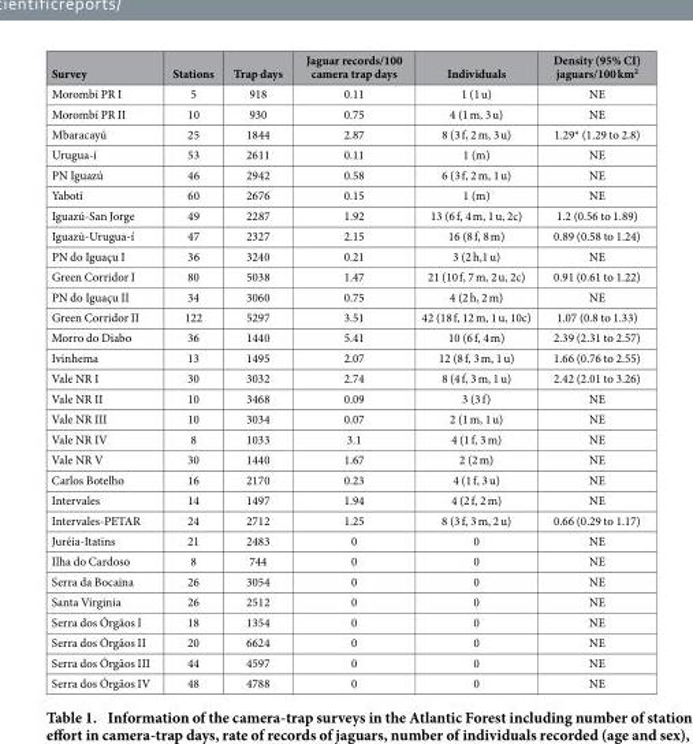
<table><thead><tr><td>Survey</td><td>Stations</td><td>Trap days</td><td>Jaguar records/100 camera trap days</td><td>Individuals</td><td>Density (95% CI) jaguars/100 km<sup>2</sup></td></tr></thead><tbody><tr><td>Morombí PR I</td><td>5</td><td>918</td><td>0.11</td><td>1 (1 u)</td><td>NE</td></tr><tr><td>Morombí PR II</td><td>10</td><td>930</td><td>0.75</td><td>4 (1 m, 3 u)</td><td>NE</td></tr><tr><td>Mbaracayú</td><td>25</td><td>1844</td><td>2.87</td><td>8 (3 f, 2 m, 3 u)</td><td>1.29* (1.29 to 2.8)</td></tr><tr><td>Urugua-í</td><td>53</td><td>2611</td><td>0.11</td><td>1 (m)</td><td>NE</td></tr><tr><td>PN Iguazú</td><td>46</td><td>2942</td><td>0.58</td><td>6 (3 f, 2 m, 1 u)</td><td>NE</td></tr><tr><td>Yabotí</td><td>60</td><td>2676</td><td>0.15</td><td>1 (m)</td><td>NE</td></tr><tr><td>Iguazú-San Jorge</td><td>49</td><td>2287</td><td>1.92</td><td>13 (6 f, 4 m, 1 u, 2c)</td><td>1.2 (0.56 to 1.89)</td></tr><tr><td>Iguazú-Urugua-í</td><td>47</td><td>2327</td><td>2.15</td><td>16 (8 f, 8 m)</td><td>0.89 (0.58 to 1.24)</td></tr><tr><td>PN do Iguaçu I</td><td>36</td><td>3240</td><td>0.21</td><td>3 (2 h,1 u)</td><td>NE</td></tr><tr><td>Green Corridor I</td><td>80</td><td>5038</td><td>1.47</td><td>21 (10 f, 7 m, 2 u, 2c)</td><td>0.91 (0.61 to 1.22)</td></tr><tr><td>PN do Iguaçu II</td><td>34</td><td>3060</td><td>0.75</td><td>4 (2 h, 2 m)</td><td>NE</td></tr><tr><td>Green Corridor II</td><td>122</td><td>5297</td><td>3.51</td><td>42 (18 f, 12 m, 1 u, 10c)</td><td>1.07 (0.8 to 1.33)</td></tr><tr><td>Morro do Diabo</td><td>36</td><td>1440</td><td>5.41</td><td>10 (6 f, 4 m)</td><td>2.39 (2.31 to 2.57)</td></tr><tr><td>Ivinhema</td><td>13</td><td>1495</td><td>2.07</td><td>12 (8 f, 3 m, 1 u)</td><td>1.66 (0.76 to 2.55)</td></tr><tr><td>Vale NR I</td><td>30</td><td>3032</td><td>2.74</td><td>8 (4 f, 3 m, 1 u)</td><td>2.42 (2.01 to 3.26)</td></tr><tr><td>Vale NR II</td><td>10</td><td>3468</td><td>0.09</td><td>3 (3 f)</td><td>NE</td></tr><tr><td>Vale NR III</td><td>10</td><td>3034</td><td>0.07</td><td>2 (1 m, 1 u)</td><td>NE</td></tr><tr><td>Vale NR IV</td><td>8</td><td>1033</td><td>3.1</td><td>4 (1 f, 3 m)</td><td>NE</td></tr><tr><td>Vale NR V</td><td>30</td><td>1440</td><td>1.67</td><td>2 (2 m)</td><td>NE</td></tr><tr><td>Carlos Botelho</td><td>16</td><td>2170</td><td>0.23</td><td>4 (1 f, 3 u)</td><td>NE</td></tr><tr><td>Intervales</td><td>14</td><td>1497</td><td>1.94</td><td>4 (2 f, 2 m)</td><td>NE</td></tr><tr><td>Intervales-PETAR</td><td>24</td><td>2712</td><td>1.25</td><td>8 (3 f, 3 m, 2 u)</td><td>0.66 (0.29 to 1.17)</td></tr><tr><td>Juréia-Itatins</td><td>21</td><td>2483</td><td>0</td><td>0</td><td>NE</td></tr><tr><td>Ilha do Cardoso</td><td>8</td><td>744</td><td>0</td><td>0</td><td>NE</td></tr><tr><td>Serra da Bocaina</td><td>26</td><td>3054</td><td>0</td><td>0</td><td>NE</td></tr><tr><td>Santa Virginia</td><td>26</td><td>2512</td><td>0</td><td>0</td><td>NE</td></tr><tr><td>Serra dos Órgãos I</td><td>18</td><td>1354</td><td>0</td><td>0</td><td>NE</td></tr><tr><td>Serra dos Órgãos II</td><td>20</td><td>6624</td><td>0</td><td>0</td><td>NE</td></tr><tr><td>Serra dos Órgãos III</td><td>44</td><td>4597</td><td>0</td><td>0</td><td>NE</td></tr><tr><td>Serra dos Órgãos IV</td><td>48</td><td>4788</td><td>0</td><td>0</td><td>NE</td></tr></tbody></table>